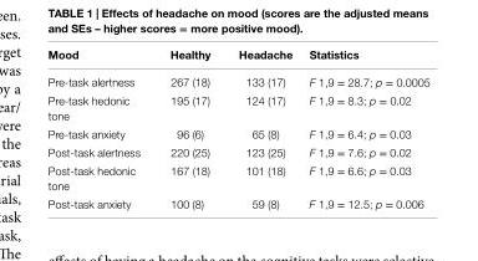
<table><thead><tr><td>Mood</td><td>healthy</td><td>headache</td><td>statistics</td></tr></thead><tbody><tr><td>Pre-task alertness</td><td>267 (18)</td><td>133 (17)</td><td>F 1,9 = 28.7; p = 0.0005</td></tr><tr><td>Pre-task hedonic tone</td><td>195 (17)</td><td>124 (17)</td><td>F 1,9 = 8.3; p = 0.02</td></tr><tr><td>Pre-task anxiety</td><td>96 (6)</td><td>65 (8)</td><td>F 1,9 = 6.4; p = 0.03</td></tr><tr><td>Post-task alertness</td><td>220 (25)</td><td>123 (25)</td><td>F 1,9 = 7.6; p = 0.02</td></tr><tr><td>Post-task hedonic tone</td><td>167 (18)</td><td>101 (18)</td><td>F 1,9 = 6.6; p = 0.03</td></tr><tr><td>Post-task anxiety</td><td>100 (8)</td><td>59 (8)</td><td>F 1,9 = 12.5; p = 0.006</td></tr></tbody></table>